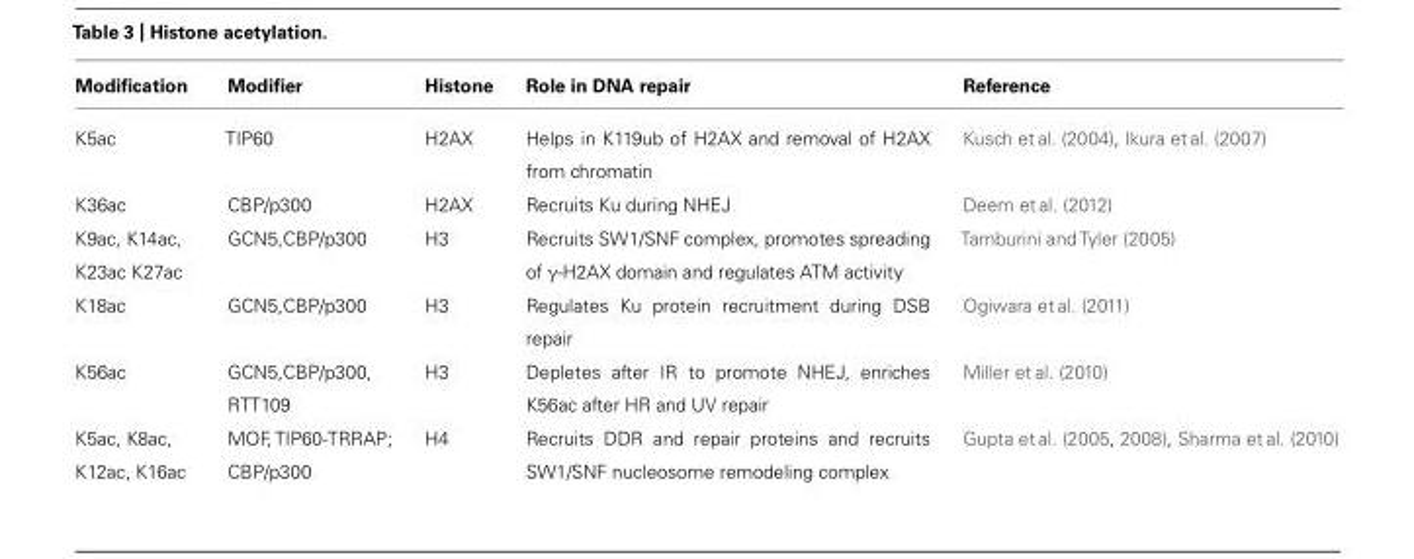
<table><thead><tr><td>Modification</td><td>Modifier</td><td>Histone</td><td>Role in DNA repair</td><td>Reference</td></tr></thead><tbody><tr><td>K5ac</td><td>TIP60</td><td>H2AX</td><td>Helps in K119ub of H2AX and removal of H2AX from chromatin</td><td>Kusch et al. (2004), Ikura et al. (2007)</td></tr><tr><td>K36ac</td><td>CBP/p300</td><td>H2AX</td><td>Recruits Ku during NHEJ</td><td>Deem et al. (2012)</td></tr><tr><td>K9ac, K14ac, K23ac K27ac</td><td>GCN5,CBP/p300</td><td>H3</td><td>Recruits SW1/SNF complex, promotes spreading of γ-H2AX domain and regulates ATM activity</td><td>Tamburini and Tyler (2005)</td></tr><tr><td>K18ac</td><td>GCN5,CBP/p300</td><td>H3</td><td>Regulates Ku protein recruitment during DSB repair</td><td>Ogiwara et al. (2011)</td></tr><tr><td>K56ac</td><td>GCN5,CBP/p300, RTT109</td><td>H3</td><td>Depletes after IR to promote NHEJ, enriches K56ac after HR and UV repair</td><td>Miller et al. (2010)</td></tr><tr><td>K5ac, K8ac, K12ac, K16ac</td><td>MOF, TIP60-TRRAP; CBP/p300</td><td>H4</td><td>Recruits DDR and repair proteins and recruits SW1/SNF nucleosome remodeling complex</td><td>Gupta et al. (2005, 2008), Sharma et al. (2010)</td></tr></tbody></table>